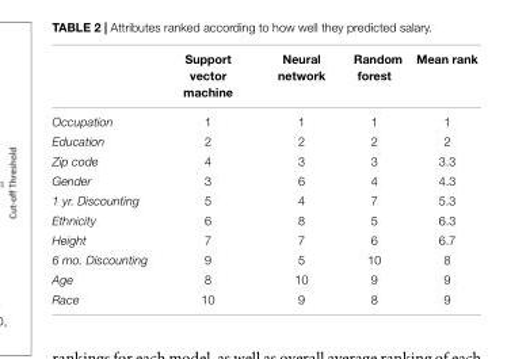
<table><thead><tr><td></td><td>Support vector machine</td><td>Neural network</td><td>Random forest</td><td>Mean rank</td></tr></thead><tbody><tr><td>Occupation</td><td>1</td><td>1</td><td>1</td><td>1</td></tr><tr><td>Education</td><td>2</td><td>2</td><td>2</td><td>2</td></tr><tr><td>Zip code</td><td>4</td><td>3</td><td>3</td><td>3.3</td></tr><tr><td>Gender</td><td>3</td><td>6</td><td>4</td><td>4.3</td></tr><tr><td>1 yr. Discounting</td><td>5</td><td>4</td><td>7</td><td>5.3</td></tr><tr><td>Ethnicity</td><td>6</td><td>8</td><td>5</td><td>6.3</td></tr><tr><td>Height</td><td>7</td><td>7</td><td>6</td><td>6.7</td></tr><tr><td>6 mo. Discounting</td><td>9</td><td>5</td><td>10</td><td>8</td></tr><tr><td>Age</td><td>8</td><td>10</td><td>9</td><td>9</td></tr><tr><td>Race</td><td>10</td><td>9</td><td>8</td><td>9</td></tr></tbody></table>